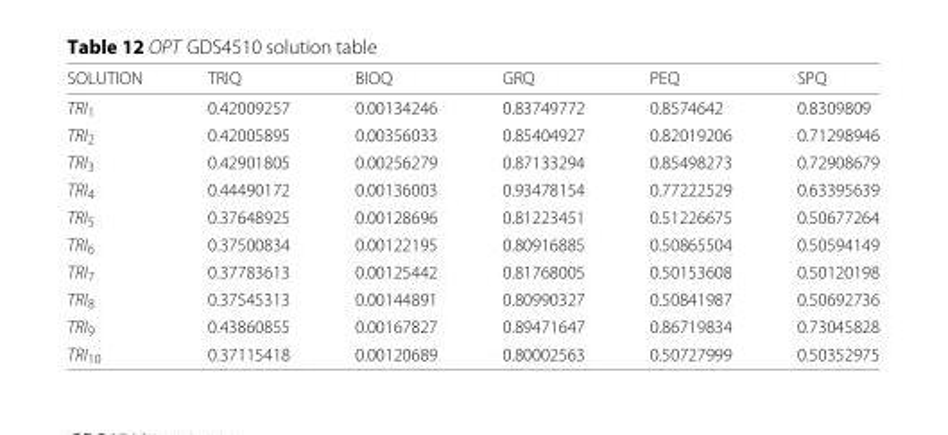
<table><thead><tr><td>SOLUTION</td><td>TRIQ</td><td>BIOQ</td><td>GRQ</td><td>PEQ</td><td>SPQ</td></tr></thead><tbody><tr><td>TRI<sub>1</sub></td><td>0.42009257</td><td>0.00134246</td><td>0.83749772</td><td>0.8574642</td><td>0.8309809</td></tr><tr><td>TRI<sub>2</sub></td><td>0.42005895</td><td>0.00356033</td><td>0.85404927</td><td>0.82019206</td><td>0.71298946</td></tr><tr><td>TRI<sub>3</sub></td><td>0.42901805</td><td>0.00256279</td><td>0.87133294</td><td>0.85498273</td><td>0.72908679</td></tr><tr><td>TRI<sub>4</sub></td><td>0.44490172</td><td>0.00136003</td><td>0.93478154</td><td>0.77222529</td><td>0.63395639</td></tr><tr><td>TRI<sub>5</sub></td><td>0.37648925</td><td>0.00128696</td><td>0.81223451</td><td>0.51226675</td><td>0.50677264</td></tr><tr><td>TRI<sub>6</sub></td><td>0.37500834</td><td>0.00122195</td><td>0.80916885</td><td>0.50865504</td><td>0.50594149</td></tr><tr><td>TRI<sub>7</sub></td><td>0.37783613</td><td>0.00125442</td><td>0.81768005</td><td>0.50153608</td><td>0.50120198</td></tr><tr><td>TRI<sub>8</sub></td><td>0.37545313</td><td>0.00144891</td><td>0.80990327</td><td>0.50841987</td><td>0.50692736</td></tr><tr><td>TRI<sub>9</sub></td><td>0.43860855</td><td>0.00167827</td><td>0.89471647</td><td>0.86719834</td><td>0.73045828</td></tr><tr><td>TRI<sub>10</sub></td><td>0.37115418</td><td>0.00120689</td><td>0.80002563</td><td>0.50727999</td><td>0.50352975</td></tr></tbody></table>